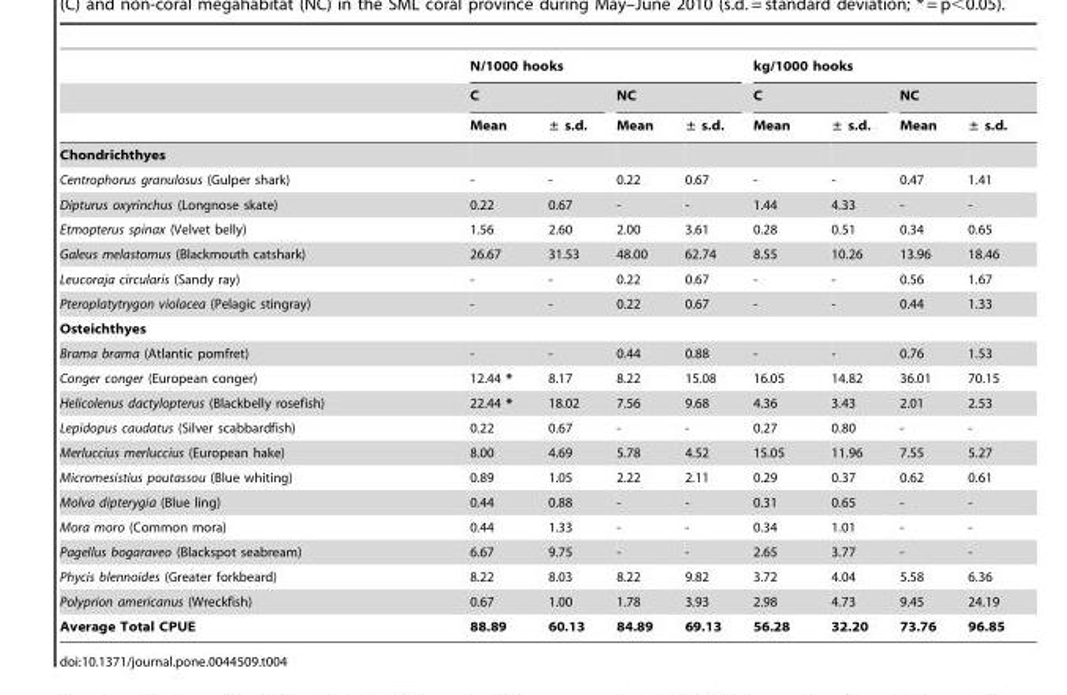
<table><thead><tr><td rowspan="3"></td><td colspan="4">N/1000 hooks</td><td colspan="4">kg/1000 hooks</td></tr><tr><td colspan="2">C</td><td colspan="2">NC</td><td colspan="2">C</td><td colspan="2">NC</td></tr><tr><td>Mean</td><td>± s.d.</td><td>Mean</td><td>± s.d.</td><td>Mean</td><td>± s.d.</td><td>Mean</td><td>± s.d.</td></tr></thead><tbody><tr><td colspan="9">Chondrichthyes</td></tr><tr><td>Centrophorus granulosus (Gulper shark)</td><td>-</td><td>-</td><td>0.22</td><td>0.67</td><td>-</td><td>-</td><td>0.47</td><td>1.41</td></tr><tr><td>Dipturus oxyrinchus (Longnose skate)</td><td>0.22</td><td>0.67</td><td>-</td><td>-</td><td>1.44</td><td>4.33</td><td>-</td><td>-</td></tr><tr><td>Etmopterus spinax (Velvet belly)</td><td>1.56</td><td>2.60</td><td>2.00</td><td>3.61</td><td>0.28</td><td>0.51</td><td>0.34</td><td>0.65</td></tr><tr><td>Galeus melastomus (Blackmouth catshark)</td><td>26.67</td><td>31.53</td><td>48.00</td><td>62.74</td><td>8.55</td><td>10.26</td><td>13.96</td><td>18.46</td></tr><tr><td>Leucoraja circularis (Sandy ray)</td><td>-</td><td>-</td><td>0.22</td><td>0.67</td><td>-</td><td>-</td><td>0.56</td><td>1.67</td></tr><tr><td>Pteroplatytrygon violacea (Pelagic stingray)</td><td>-</td><td>-</td><td>0.22</td><td>0.67</td><td>-</td><td>-</td><td>0.44</td><td>1.33</td></tr><tr><td colspan="9">Osteichthyes</td></tr><tr><td>Brama brama (Atlantic pomfret)</td><td>-</td><td>-</td><td>0.44</td><td>0.88</td><td>-</td><td>-</td><td>0.76</td><td>1.53</td></tr><tr><td>Conger conger (European conger)</td><td>12.44 *</td><td>8.17</td><td>8.22</td><td>15.08</td><td>16.05</td><td>14.82</td><td>36.01</td><td>70.15</td></tr><tr><td>Helicolenus dactylopterus (Blackbelly rosefish)</td><td>22.44 *</td><td>18.02</td><td>7.56</td><td>9.68</td><td>4.36</td><td>3.43</td><td>2.01</td><td>2.53</td></tr><tr><td>Lepidopus caudatus (Silver scabbardfish)</td><td>0.22</td><td>0.67</td><td>-</td><td>-</td><td>0.27</td><td>0.80</td><td>-</td><td>-</td></tr><tr><td>Merluccius merluccius (European hake)</td><td>8.00</td><td>4.69</td><td>5.78</td><td>4.52</td><td>15.05</td><td>11.96</td><td>7.55</td><td>5.27</td></tr><tr><td>Micromesistius poutassou (Blue whiting)</td><td>0.89</td><td>1.05</td><td>2.22</td><td>2.11</td><td>0.29</td><td>0.37</td><td>0.62</td><td>0.61</td></tr><tr><td>Molva dipterygia (Blue ling)</td><td>0.44</td><td>0.88</td><td>-</td><td>-</td><td>0.31</td><td>0.65</td><td>-</td><td>-</td></tr><tr><td>Mora moro (Common mora)</td><td>0.44</td><td>1.33</td><td>-</td><td>-</td><td>0.34</td><td>1.01</td><td>-</td><td>-</td></tr><tr><td>Pagellus bogaraveo (Blackspot seabream)</td><td>6.67</td><td>9.75</td><td>-</td><td>-</td><td>2.65</td><td>3.77</td><td>-</td><td>-</td></tr><tr><td>Phycis blennoides (Greater forkbeard)</td><td>8.22</td><td>8.03</td><td>8.22</td><td>9.82</td><td>3.72</td><td>4.04</td><td>5.58</td><td>6.36</td></tr><tr><td>Polyprion americanus (Wreckfish)</td><td>0.67</td><td>1.00</td><td>1.78</td><td>3.93</td><td>2.98</td><td>4.73</td><td>9.45</td><td>24.19</td></tr><tr><td>Average Total CPUE</td><td>88.89</td><td>60.13</td><td>84.89</td><td>69.13</td><td>56.28</td><td>32.20</td><td>73.76</td><td>96.85</td></tr></tbody></table>